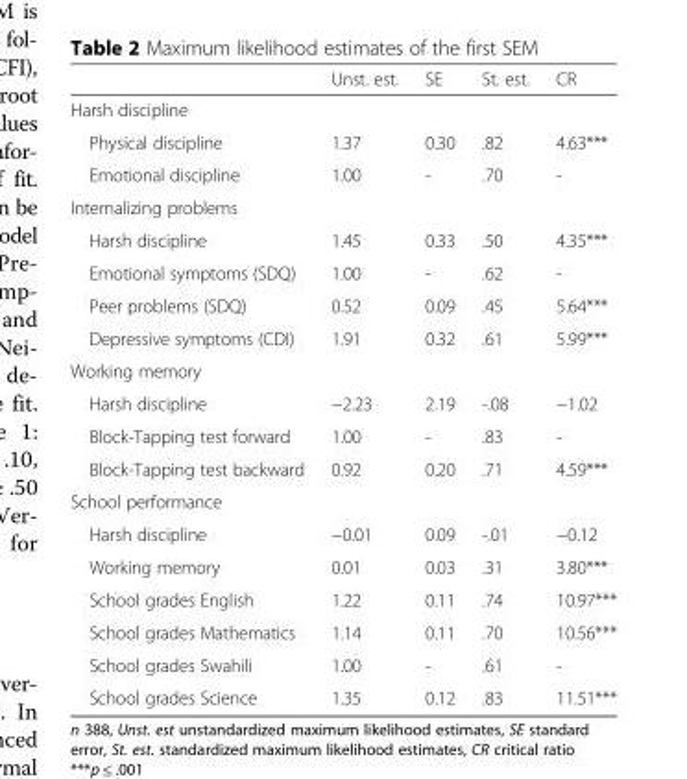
<table><thead><tr><td></td><td>Unst. est.</td><td>SE</td><td>St. est.</td><td>CR</td></tr></thead><tbody><tr><td colspan="5">Harsh discipline</td></tr><tr><td>Physical discipline</td><td>1.37</td><td>0.30</td><td>.82</td><td>4.63***</td></tr><tr><td>Emotional discipline</td><td>1.00</td><td>-</td><td>.70</td><td>-</td></tr><tr><td colspan="5">Internalizing problems</td></tr><tr><td>Harsh discipline</td><td>1.45</td><td>0.33</td><td>.50</td><td>4.35***</td></tr><tr><td>Emotional symptoms (SDQ)</td><td>1.00</td><td>-</td><td>.62</td><td>-</td></tr><tr><td>Peer problems (SDQ)</td><td>0.52</td><td>0.09</td><td>.45</td><td>5.64***</td></tr><tr><td>Depressive symptoms (CDI)</td><td>1.91</td><td>0.32</td><td>.61</td><td>5.99***</td></tr><tr><td colspan="5">Working memory</td></tr><tr><td>Harsh discipline</td><td>−2.23</td><td>2.19</td><td>-.08</td><td>−1.02</td></tr><tr><td>Block-Tapping test forward</td><td>1.00</td><td>-</td><td>.83</td><td>-</td></tr><tr><td>Block-Tapping test backward</td><td>0.92</td><td>0.20</td><td>.71</td><td>4.59***</td></tr><tr><td colspan="5">School performance</td></tr><tr><td>Harsh discipline</td><td>−0.01</td><td>0.09</td><td>-.01</td><td>−0.12</td></tr><tr><td>Working memory</td><td>0.01</td><td>0.03</td><td>.31</td><td>3.80***</td></tr><tr><td>School grades English</td><td>1.22</td><td>0.11</td><td>.74</td><td>10.97***</td></tr><tr><td>School grades Mathematics</td><td>1.14</td><td>0.11</td><td>.70</td><td>10.56***</td></tr><tr><td>School grades Swahili</td><td>1.00</td><td>-</td><td>.61</td><td>-</td></tr><tr><td>School grades Science</td><td>1.35</td><td>0.12</td><td>.83</td><td>11.51***</td></tr></tbody></table>